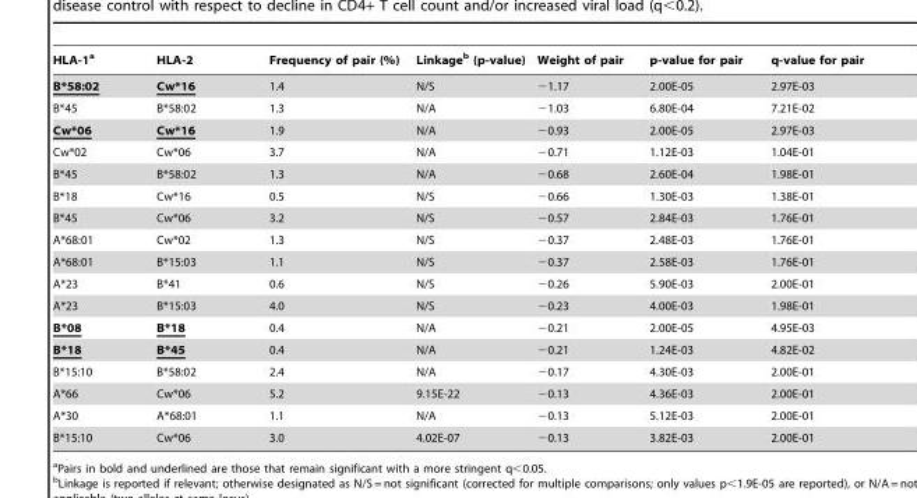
<table><thead><tr><td>HLA-1<sup>a</sup></td><td>HLA-2</td><td>Frequency of pair (%)</td><td>Linkage<sup>b</sup> (p-value)</td><td>Weight of pair</td><td>p-value for pair</td><td>q-value for pair</td></tr></thead><tbody><tr><td>B*58:02</td><td>Cw*16</td><td>1.4</td><td>N/S</td><td>−1.17</td><td>2.00E-05</td><td>2.97E-03</td></tr><tr><td>B*45</td><td>B*58:02</td><td>1.3</td><td>N/A</td><td>−1.03</td><td>6.80E-04</td><td>7.21E-02</td></tr><tr><td>Cw*06</td><td>Cw*16</td><td>1.9</td><td>N/A</td><td>−0.93</td><td>2.00E-05</td><td>2.97E-03</td></tr><tr><td>Cw*02</td><td>Cw*06</td><td>3.7</td><td>N/A</td><td>−0.71</td><td>1.12E-03</td><td>1.04E-01</td></tr><tr><td>B*45</td><td>B*58:02</td><td>1.3</td><td>N/A</td><td>−0.68</td><td>2.60E-04</td><td>1.98E-01</td></tr><tr><td>B*18</td><td>Cw*16</td><td>0.5</td><td>N/S</td><td>−0.66</td><td>1.30E-03</td><td>1.38E-01</td></tr><tr><td>B*45</td><td>Cw*06</td><td>3.2</td><td>N/S</td><td>−0.57</td><td>2.84E-03</td><td>1.76E-01</td></tr><tr><td>A*68:01</td><td>Cw*02</td><td>1.3</td><td>N/S</td><td>−0.37</td><td>2.48E-03</td><td>1.76E-01</td></tr><tr><td>A*68:01</td><td>B*15:03</td><td>1.1</td><td>N/S</td><td>−0.37</td><td>2.58E-03</td><td>1.76E-01</td></tr><tr><td>A*23</td><td>B*41</td><td>0.6</td><td>N/S</td><td>−0.26</td><td>5.90E-03</td><td>2.00E-01</td></tr><tr><td>A*23</td><td>B*15:03</td><td>4.0</td><td>N/S</td><td>−0.23</td><td>4.00E-03</td><td>1.98E-01</td></tr><tr><td>B*08</td><td>B*18</td><td>0.4</td><td>N/A</td><td>−0.21</td><td>2.00E-05</td><td>4.95E-03</td></tr><tr><td>B*18</td><td>B*45</td><td>0.4</td><td>N/A</td><td>−0.21</td><td>1.24E-03</td><td>4.82E-02</td></tr><tr><td>B*15:10</td><td>B*58:02</td><td>2.4</td><td>N/A</td><td>−0.17</td><td>4.30E-03</td><td>2.00E-01</td></tr><tr><td>A*66</td><td>Cw*06</td><td>5.2</td><td>9.15E-22</td><td>−0.13</td><td>4.36E-03</td><td>2.00E-01</td></tr><tr><td>A*30</td><td>A*68:01</td><td>1.1</td><td>N/A</td><td>−0.13</td><td>5.12E-03</td><td>2.00E-01</td></tr><tr><td>B*15:10</td><td>Cw*06</td><td>3.0</td><td>4.02E-07</td><td>−0.13</td><td>3.82E-03</td><td>2.00E-01</td></tr></tbody></table>